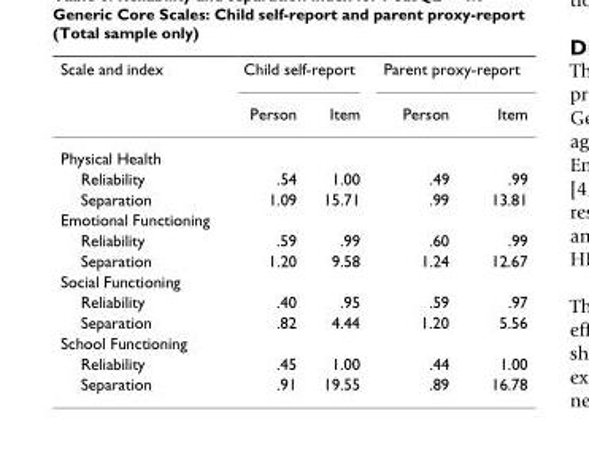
<table><thead><tr><td rowspan="2">Scale and index</td><td colspan="2">Child self-report</td><td colspan="2">Parent proxy-report</td></tr><tr><td>Person</td><td>Item</td><td>Person</td><td>Item</td></tr></thead><tbody><tr><td colspan="5">Physical Health</td></tr><tr><td>Reliability</td><td>.54</td><td>1.00</td><td>.49</td><td>.99</td></tr><tr><td>Separation</td><td>1.09</td><td>15.71</td><td>.99</td><td>13.81</td></tr><tr><td colspan="5">Emotional Functioning</td></tr><tr><td>Reliability</td><td>.59</td><td>.99</td><td>.60</td><td>.99</td></tr><tr><td>Separation</td><td>1.20</td><td>9.58</td><td>1.24</td><td>12.67</td></tr><tr><td colspan="5">Social Functioning</td></tr><tr><td>Reliability</td><td>.40</td><td>.95</td><td>.59</td><td>.97</td></tr><tr><td>Separation</td><td>.82</td><td>4.44</td><td>1.20</td><td>5.56</td></tr><tr><td colspan="5">School Functioning</td></tr><tr><td>Reliability</td><td>.45</td><td>1.00</td><td>.44</td><td>1.00</td></tr><tr><td>Separation</td><td>.91</td><td>19.55</td><td>.89</td><td>16.78</td></tr></tbody></table>